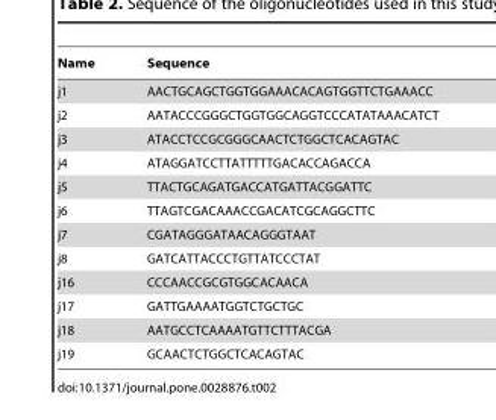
<table><thead><tr><td>Name</td><td>Sequence</td></tr></thead><tbody><tr><td>j1</td><td>AACTGCAGCTGGTGGAAACACAGTGGTTCTGAAACC</td></tr><tr><td>j2</td><td>AATACCCGGGCTGGTGGCAGGTCCCATATAAACATCT</td></tr><tr><td>j3</td><td>ATACCTCCGCGGGCAACTCTGGCTCACAGTAC</td></tr><tr><td>j4</td><td>ATAGGATCCTTATTTTTGACACCAGACCA</td></tr><tr><td>j5</td><td>TTACTGCAGATGACCATGATTACGGATTC</td></tr><tr><td>j6</td><td>TTAGTCGACAAACCGACATCGCAGGCTTC</td></tr><tr><td>j7</td><td>CGATAGGGATAACAGGGTAAT</td></tr><tr><td>j8</td><td>GATCATTACCCTGTTATCCCTAT</td></tr><tr><td>j16</td><td>CCCAACCGCGTGGCACAACA</td></tr><tr><td>j17</td><td>GATTGAAAATGGTCTGCTGC</td></tr><tr><td>j18</td><td>AATGCCTCAAAATGTTCTTTACGA</td></tr><tr><td>j19</td><td>GCAACTCTGGCTCACAGTAC</td></tr></tbody></table>